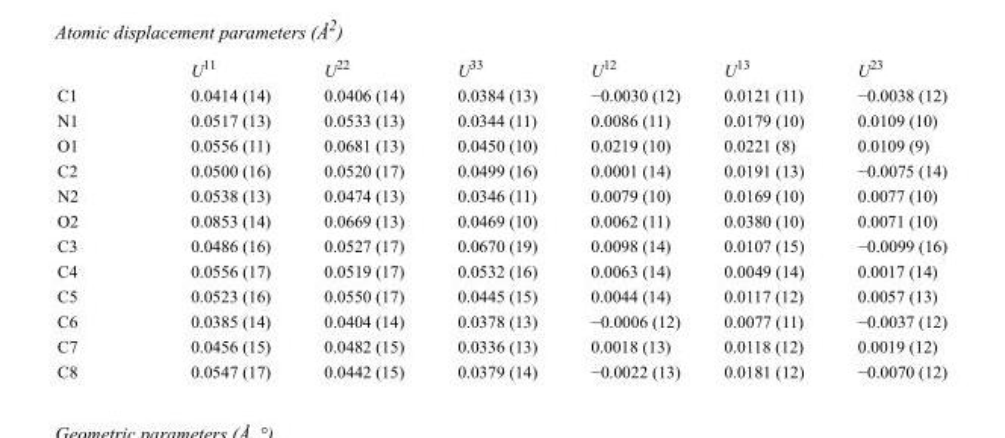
<table><thead><tr><td></td><td>U<sup>11</sup></td><td>U<sup>22</sup></td><td>U<sup>33</sup></td><td>U<sup>12</sup></td><td>U<sup>13</sup></td><td>U<sup>23</sup></td></tr></thead><tbody><tr><td>C1</td><td>0.0414 (14)</td><td>0.0406 (14)</td><td>0.0384 (13)</td><td>−0.0030 (12)</td><td>0.0121 (11)</td><td>−0.0038 (12)</td></tr><tr><td>N1</td><td>0.0517 (13)</td><td>0.0533 (13)</td><td>0.0344 (11)</td><td>0.0086 (11)</td><td>0.0179 (10)</td><td>0.0109 (10)</td></tr><tr><td>O1</td><td>0.0556 (11)</td><td>0.0681 (13)</td><td>0.0450 (10)</td><td>0.0219 (10)</td><td>0.0221 (8)</td><td>0.0109 (9)</td></tr><tr><td>C2</td><td>0.0500 (16)</td><td>0.0520 (17)</td><td>0.0499 (16)</td><td>0.0001 (14)</td><td>0.0191 (13)</td><td>−0.0075 (14)</td></tr><tr><td>N2</td><td>0.0538 (13)</td><td>0.0474 (13)</td><td>0.0346 (11)</td><td>0.0079 (10)</td><td>0.0169 (10)</td><td>0.0077 (10)</td></tr><tr><td>O2</td><td>0.0853 (14)</td><td>0.0669 (13)</td><td>0.0469 (10)</td><td>0.0062 (11)</td><td>0.0380 (10)</td><td>0.0071 (10)</td></tr><tr><td>C3</td><td>0.0486 (16)</td><td>0.0527 (17)</td><td>0.0670 (19)</td><td>0.0098 (14)</td><td>0.0107 (15)</td><td>−0.0099 (16)</td></tr><tr><td>C4</td><td>0.0556 (17)</td><td>0.0519 (17)</td><td>0.0532 (16)</td><td>0.0063 (14)</td><td>0.0049 (14)</td><td>0.0017 (14)</td></tr><tr><td>C5</td><td>0.0523 (16)</td><td>0.0550 (17)</td><td>0.0445 (15)</td><td>0.0044 (14)</td><td>0.0117 (12)</td><td>0.0057 (13)</td></tr><tr><td>C6</td><td>0.0385 (14)</td><td>0.0404 (14)</td><td>0.0378 (13)</td><td>−0.0006 (12)</td><td>0.0077 (11)</td><td>−0.0037 (12)</td></tr><tr><td>C7</td><td>0.0456 (15)</td><td>0.0482 (15)</td><td>0.0336 (13)</td><td>0.0018 (13)</td><td>0.0118 (12)</td><td>0.0019 (12)</td></tr><tr><td>C8</td><td>0.0547 (17)</td><td>0.0442 (15)</td><td>0.0379 (14)</td><td>−0.0022 (13)</td><td>0.0181 (12)</td><td>−0.0070 (12)</td></tr></tbody></table>